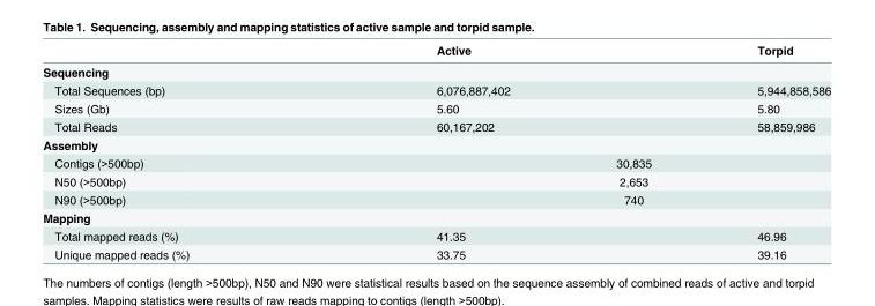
<table><thead><tr><td></td><td>Active</td><td>Torpid</td></tr></thead><tbody><tr><td colspan="3">Sequencing</td></tr><tr><td>Total Sequences (bp)</td><td>6,076,887,402</td><td>5,944,858,586</td></tr><tr><td>Sizes (Gb)</td><td>5.60</td><td>5.80</td></tr><tr><td>Total Reads</td><td>60,167,202</td><td>58,859,986</td></tr><tr><td colspan="3">Assembly</td></tr><tr><td>Contigs (&gt;500bp)</td><td colspan="2">30,835</td></tr><tr><td>N50 (&gt;500bp)</td><td colspan="2">2,653</td></tr><tr><td>N90 (&gt;500bp)</td><td colspan="2">740</td></tr><tr><td colspan="3">Mapping</td></tr><tr><td>Total mapped reads (%)</td><td>41.35</td><td>46.96</td></tr><tr><td>Unique mapped reads (%)</td><td>33.75</td><td>39.16</td></tr></tbody></table>